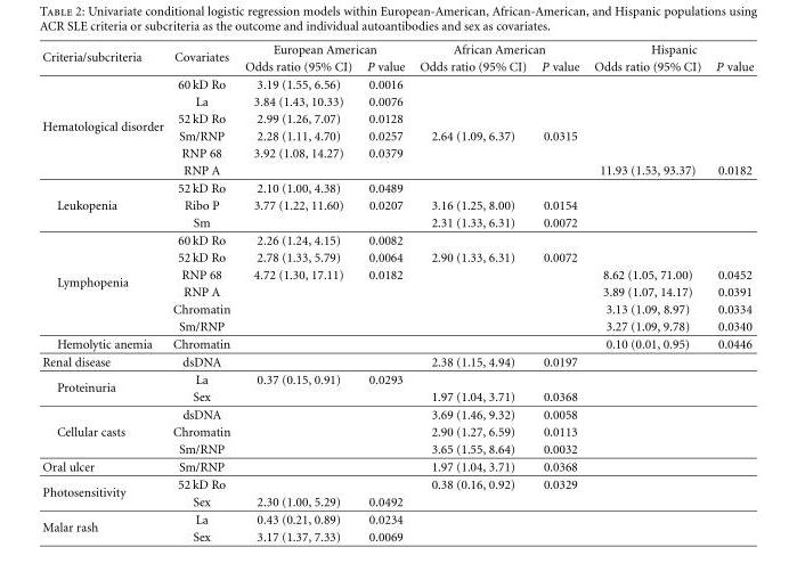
<table><thead><tr><td rowspan="2">Criteria/subcriteria</td><td rowspan="2">Covariates</td><td colspan="2">European American</td><td colspan="2">African American</td><td colspan="2">Hispanic</td></tr><tr><td>Odds ratio (95% CI)</td><td>P value</td><td>Odds ratio (95% CI)</td><td>P value</td><td>Odds ratio (95% CI)</td><td>P value</td></tr></thead><tbody><tr><td></td><td>60 kD Ro</td><td>3.19 (1.55, 6.56)</td><td>0.0016</td><td></td><td></td><td></td><td></td></tr><tr><td></td><td>La</td><td>3.84 (1.43, 10.33)</td><td>0.0076</td><td></td><td></td><td></td><td></td></tr><tr><td rowspan="5">Hematological disorder</td><td>52 kD Ro</td><td>2.99 (1.26, 7.07)</td><td>0.0128</td><td></td><td></td><td></td><td></td></tr><tr><td>Sm/RNP</td><td>2.28 (1.11, 4.70)</td><td>0.0257</td><td>2.64 (1.09, 6.37)</td><td>0.0315</td><td></td><td></td></tr><tr><td>RNP 68</td><td>3.92 (1.08, 14.27)</td><td>0.0379</td><td></td><td></td><td></td><td></td></tr><tr><td>RNP A</td><td></td><td></td><td></td><td></td><td>11.93 (1.53, 93.37)</td><td>0.0182</td></tr><tr><td>52 kD Ro</td><td>2.10 (1.00, 4.38)</td><td>0.0489</td><td></td><td></td><td></td><td></td></tr><tr><td rowspan="4">Leukopenia</td><td>Ribo P</td><td>3.77 (1.22, 11.60)</td><td>0.0207</td><td>3.16 (1.25, 8.00)</td><td>0.0154</td><td></td><td></td></tr><tr><td>Sm</td><td></td><td></td><td>2.31 (1.33, 6.31)</td><td>0.0072</td><td></td><td></td></tr><tr><td>60 kD Ro</td><td>2.26 (1.24, 4.15)</td><td>0.0082</td><td></td><td></td><td></td><td></td></tr><tr><td>52 kD Ro</td><td>2.78 (1.33, 5.79)</td><td>0.0064</td><td>2.90 (1.33, 6.31)</td><td>0.0072</td><td></td><td></td></tr><tr><td rowspan="4">Lymphopenia</td><td>RNP 68</td><td>4.72 (1.30, 17.11)</td><td>0.0182</td><td></td><td></td><td>8.62 (1.05, 71.00)</td><td>0.0452</td></tr><tr><td>RNP A</td><td></td><td></td><td></td><td></td><td>3.89 (1.07, 14.17)</td><td>0.0391</td></tr><tr><td>Chromatin</td><td></td><td></td><td></td><td></td><td>3.13 (1.09, 8.97)</td><td>0.0334</td></tr><tr><td>Sm/RNP</td><td></td><td></td><td></td><td></td><td>3.27 (1.09, 9.78)</td><td>0.0340</td></tr><tr><td>Hemolytic anemia</td><td>Chromatin</td><td></td><td></td><td></td><td></td><td>0.10 (0.01, 0.95)</td><td>0.0446</td></tr><tr><td>Renal disease</td><td>dsDNA</td><td></td><td></td><td>2.38 (1.15, 4.94)</td><td>0.0197</td><td></td><td></td></tr><tr><td rowspan="3">Proteinuria</td><td>La</td><td>0.37 (0.15, 0.91)</td><td>0.0293</td><td></td><td></td><td></td><td></td></tr><tr><td>Sex</td><td></td><td></td><td>1.97 (1.04, 3.71)</td><td>0.0368</td><td></td><td></td></tr><tr><td>dsDNA</td><td></td><td></td><td>3.69 (1.46, 9.32)</td><td>0.0058</td><td></td><td></td></tr><tr><td rowspan="2">Cellular casts</td><td>Chromatin</td><td></td><td></td><td>2.90 (1.27, 6.59)</td><td>0.0113</td><td></td><td></td></tr><tr><td>Sm/RNP</td><td></td><td></td><td>3.65 (1.55, 8.64)</td><td>0.0032</td><td></td><td></td></tr><tr><td>Oral ulcer</td><td>Sm/RNP</td><td></td><td></td><td>1.97 (1.04, 3.71)</td><td>0.0368</td><td></td><td></td></tr><tr><td rowspan="2">Photosensitivity</td><td>52 kD Ro</td><td></td><td></td><td>0.38 (0.16, 0.92)</td><td>0.0329</td><td></td><td></td></tr><tr><td>Sex</td><td>2.30 (1.00, 5.29)</td><td>0.0492</td><td></td><td></td><td></td><td></td></tr><tr><td rowspan="2">Malar rash</td><td>La</td><td>0.43 (0.21, 0.89)</td><td>0.0234</td><td></td><td></td><td></td><td></td></tr><tr><td>Sex</td><td>3.17 (1.37, 7.33)</td><td>0.0069</td><td></td><td></td><td></td><td></td></tr></tbody></table>